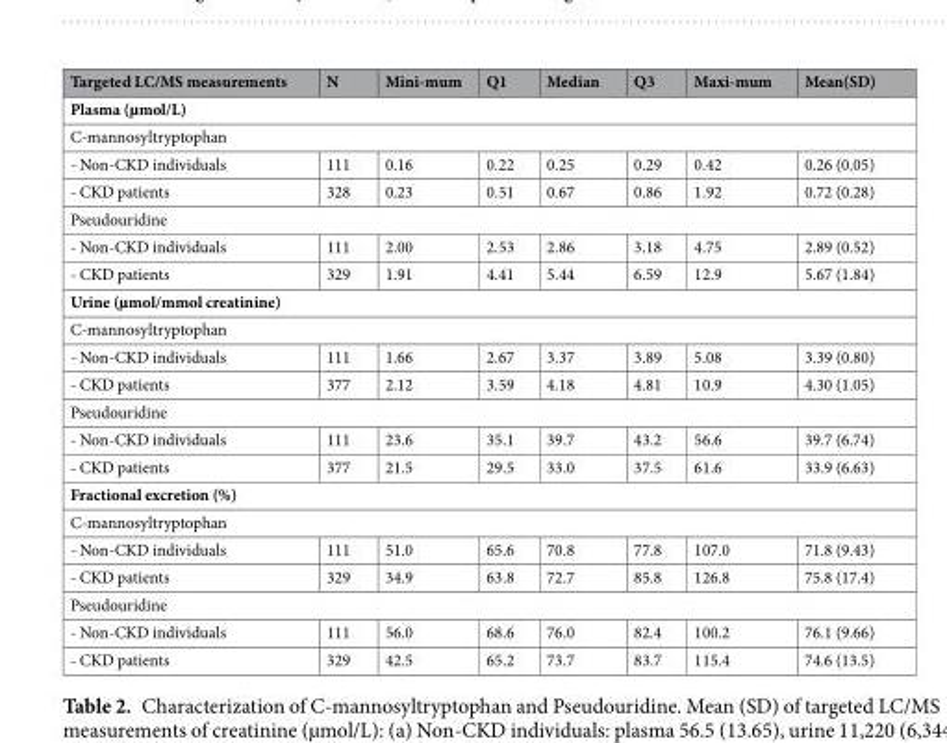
<table><thead><tr><td>Targeted LC/MS measurements</td><td>N</td><td>Mini-mum</td><td>Q1</td><td>Median</td><td>Q3</td><td>Maxi-mum</td><td>Mean(SD)</td></tr></thead><tbody><tr><td colspan="8">Plasma (µmol/L)</td></tr><tr><td colspan="8">C-mannosyltryptophan</td></tr><tr><td>- Non-CKD individuals</td><td>111</td><td>0.16</td><td>0.22</td><td>0.25</td><td>0.29</td><td>0.42</td><td>0.26 (0.05)</td></tr><tr><td>- CKD patients</td><td>328</td><td>0.23</td><td>0.51</td><td>0.67</td><td>0.86</td><td>1.92</td><td>0.72 (0.28)</td></tr><tr><td colspan="8">Pseudouridine</td></tr><tr><td>- Non-CKD individuals</td><td>111</td><td>2.00</td><td>2.53</td><td>2.86</td><td>3.18</td><td>4.75</td><td>2.89 (0.52)</td></tr><tr><td>- CKD patients</td><td>329</td><td>1.91</td><td>4.41</td><td>5.44</td><td>6.59</td><td>12.9</td><td>5.67 (1.84)</td></tr><tr><td colspan="8">Urine (µmol/mmol creatinine)</td></tr><tr><td colspan="8">C-mannosyltryptophan</td></tr><tr><td>- Non-CKD individuals</td><td>111</td><td>1.66</td><td>2.67</td><td>3.37</td><td>3.89</td><td>5.08</td><td>3.39 (0.80)</td></tr><tr><td>- CKD patients</td><td>377</td><td>2.12</td><td>3.59</td><td>4.18</td><td>4.81</td><td>10.9</td><td>4.30 (1.05)</td></tr><tr><td colspan="8">Pseudouridine</td></tr><tr><td>- Non-CKD individuals</td><td>111</td><td>23.6</td><td>35.1</td><td>39.7</td><td>43.2</td><td>56.6</td><td>39.7 (6.74)</td></tr><tr><td>- CKD patients</td><td>377</td><td>21.5</td><td>29.5</td><td>33.0</td><td>37.5</td><td>61.6</td><td>33.9 (6.63)</td></tr><tr><td colspan="8">Fractional excretion (%)</td></tr><tr><td colspan="8">C-mannosyltryptophan</td></tr><tr><td>- Non-CKD individuals</td><td>111</td><td>51.0</td><td>65.6</td><td>70.8</td><td>77.8</td><td>107.0</td><td>71.8 (9.43)</td></tr><tr><td>- CKD patients</td><td>329</td><td>34.9</td><td>63.8</td><td>72.7</td><td>85.8</td><td>126.8</td><td>75.8 (17.4)</td></tr><tr><td colspan="8">Pseudouridine</td></tr><tr><td>- Non-CKD individuals</td><td>111</td><td>56.0</td><td>68.6</td><td>76.0</td><td>82.4</td><td>100.2</td><td>76.1 (9.66)</td></tr><tr><td>- CKD patients</td><td>329</td><td>42.5</td><td>65.2</td><td>73.7</td><td>83.7</td><td>115.4</td><td>74.6 (13.5)</td></tr></tbody></table>